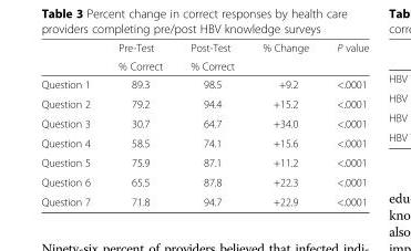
<table><thead><tr><td rowspan="2"></td><td rowspan="2">Pre-Test % Correct</td><td rowspan="2">Post-Test % Correct</td><td rowspan="2">% Change</td><td rowspan="2">P value</td></tr><tr></tr></thead><tbody><tr><td>Question 1</td><td>89.3</td><td>98.5</td><td>+9.2</td><td>&lt;.0001</td></tr><tr><td>Question 2</td><td>79.2</td><td>94.4</td><td>+15.2</td><td>&lt;.0001</td></tr><tr><td>Question 3</td><td>30.7</td><td>64.7</td><td>+34.0</td><td>&lt;.0001</td></tr><tr><td>Question 4</td><td>58.5</td><td>74.1</td><td>+15.6</td><td>&lt;.0001</td></tr><tr><td>Question 5</td><td>75.9</td><td>87.1</td><td>+11.2</td><td>&lt;.0001</td></tr><tr><td>Question 6</td><td>65.5</td><td>87.8</td><td>+22.3</td><td>&lt;.0001</td></tr><tr><td>Question 7</td><td>71.8</td><td>94.7</td><td>+22.9</td><td>&lt;.0001</td></tr></tbody></table>